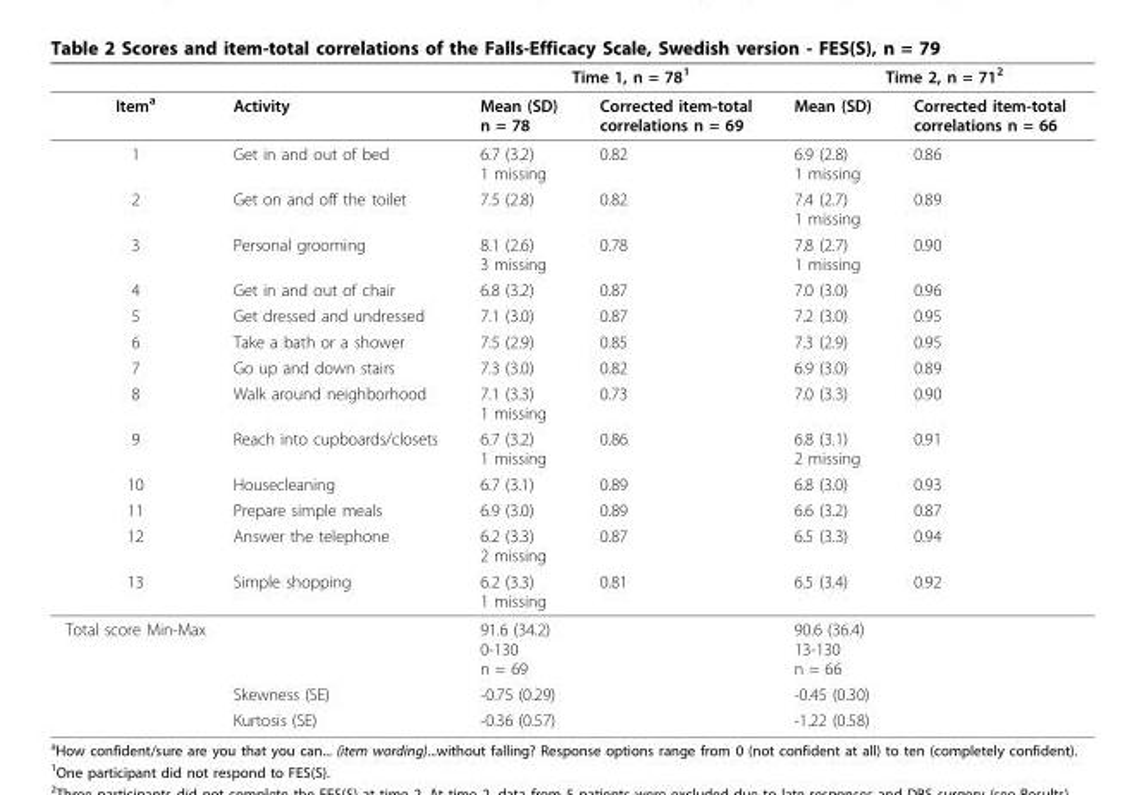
<table><thead><tr><td rowspan="2">Item<sup>a</sup></td><td rowspan="2">Activity</td><td colspan="2">Time 1, n = 78<sup>1</sup></td><td colspan="2">Time 2, n = 71<sup>2</sup></td></tr><tr><td>Mean (SD) n = 78</td><td>Corrected item-total correlations n = 69</td><td>Mean (SD)</td><td>Corrected item-total correlations n = 66</td></tr></thead><tbody><tr><td>1</td><td>Get in and out of bed</td><td>6.7 (3.2) 1 missing</td><td>0.82</td><td>6.9 (2.8) 1 missing</td><td>0.86</td></tr><tr><td>2</td><td>Get on and off the toilet</td><td>7.5 (2.8)</td><td>0.82</td><td>7.4 (2.7) 1 missing</td><td>0.89</td></tr><tr><td>3</td><td>Personal grooming</td><td>8.1 (2.6) 3 missing</td><td>0.78</td><td>7.8 (2.7) 1 missing</td><td>0.90</td></tr><tr><td>4</td><td>Get in and out of chair</td><td>6.8 (3.2)</td><td>0.87</td><td>7.0 (3.0)</td><td>0.96</td></tr><tr><td>5</td><td>Get dressed and undressed</td><td>7.1 (3.0)</td><td>0.87</td><td>7.2 (3.0)</td><td>0.95</td></tr><tr><td>6</td><td>Take a bath or a shower</td><td>7.5 (2.9)</td><td>0.85</td><td>7.3 (2.9)</td><td>0.95</td></tr><tr><td>7</td><td>Go up and down stairs</td><td>7.3 (3.0)</td><td>0.82</td><td>6.9 (3.0)</td><td>0.89</td></tr><tr><td>8</td><td>Walk around neighborhood</td><td>7.1 (3.3) 1 missing</td><td>0.73</td><td>7.0 (3.3)</td><td>0.90</td></tr><tr><td>9</td><td>Reach into cupboards/closets</td><td>6.7 (3.2) 1 missing</td><td>0.86</td><td>6.8 (3.1) 2 missing</td><td>0.91</td></tr><tr><td>10</td><td>Housecleaning</td><td>6.7 (3.1)</td><td>0.89</td><td>6.8 (3.0)</td><td>0.93</td></tr><tr><td>11</td><td>Prepare simple meals</td><td>6.9 (3.0)</td><td>0.89</td><td>6.6 (3.2)</td><td>0.87</td></tr><tr><td>12</td><td>Answer the telephone</td><td>6.2 (3.3) 2 missing</td><td>0.87</td><td>6.5 (3.3)</td><td>0.94</td></tr><tr><td>13</td><td>Simple shopping</td><td>6.2 (3.3) 1 missing</td><td>0.81</td><td>6.5 (3.4)</td><td>0.92</td></tr><tr><td rowspan="3">Total score Min-Max</td><td></td><td>91.6 (34.2) 0-130 n = 69</td><td></td><td>90.6 (36.4) 13-130 n = 66</td><td></td></tr><tr><td>Skewness (SE)</td><td>-0.75 (0.29)</td><td></td><td>-0.45 (0.30)</td><td></td></tr><tr><td>Kurtosis (SE)</td><td>-0.36 (0.57)</td><td></td><td>-1.22 (0.58)</td><td></td></tr></tbody></table>